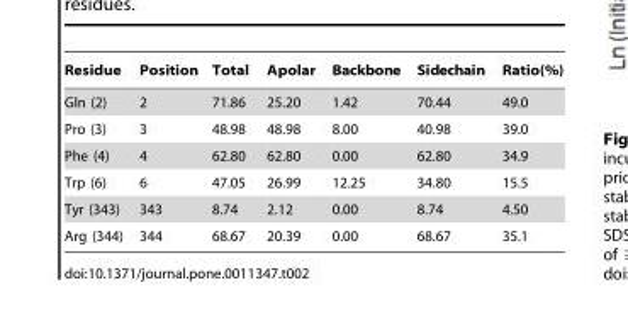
<table><thead><tr><td>Residue</td><td>Position</td><td>Total</td><td>Apolar</td><td>Backbone</td><td>Sidechain</td><td>Ratio(%)</td></tr></thead><tbody><tr><td>Gln (2)</td><td>2</td><td>71.86</td><td>25.20</td><td>1.42</td><td>70.44</td><td>49.0</td></tr><tr><td>Pro (3)</td><td>3</td><td>48.98</td><td>48.98</td><td>8.00</td><td>40.98</td><td>39.0</td></tr><tr><td>Phe (4)</td><td>4</td><td>62.80</td><td>62.80</td><td>0.00</td><td>62.80</td><td>34.9</td></tr><tr><td>Trp (6)</td><td>6</td><td>47.05</td><td>26.99</td><td>12.25</td><td>34.80</td><td>15.5</td></tr><tr><td>Tyr (343)</td><td>343</td><td>8.74</td><td>2.12</td><td>0.00</td><td>8.74</td><td>4.50</td></tr><tr><td>Arg (344)</td><td>344</td><td>68.67</td><td>20.39</td><td>0.00</td><td>68.67</td><td>35.1</td></tr></tbody></table>